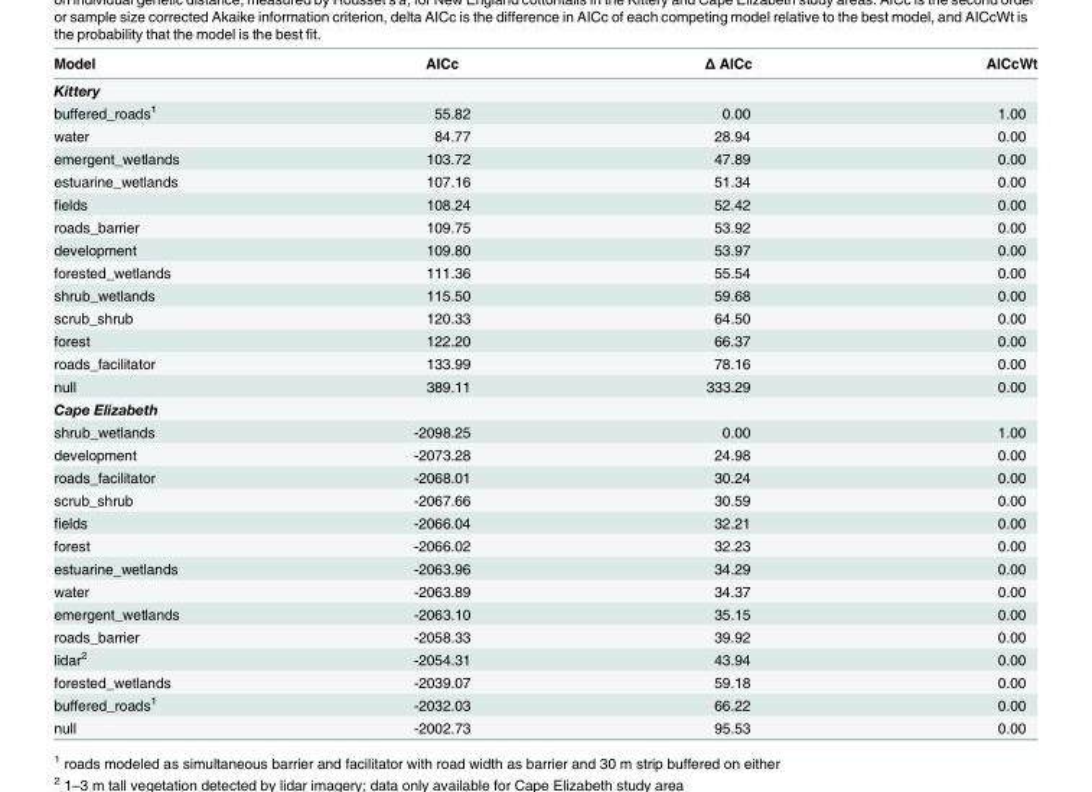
<table><thead><tr><td>Model</td><td>AICc</td><td>Δ AICc</td><td>AICcWt</td></tr></thead><tbody><tr><td colspan="4">Kittery</td></tr><tr><td>buffered_roads<sup>1</sup></td><td>55.82</td><td>0.00</td><td>1.00</td></tr><tr><td>water</td><td>84.77</td><td>28.94</td><td>0.00</td></tr><tr><td>emergent_wetlands</td><td>103.72</td><td>47.89</td><td>0.00</td></tr><tr><td>estuarine_wetlands</td><td>107.16</td><td>51.34</td><td>0.00</td></tr><tr><td>fields</td><td>108.24</td><td>52.42</td><td>0.00</td></tr><tr><td>roads_barrier</td><td>109.75</td><td>53.92</td><td>0.00</td></tr><tr><td>development</td><td>109.80</td><td>53.97</td><td>0.00</td></tr><tr><td>forested_wetlands</td><td>111.36</td><td>55.54</td><td>0.00</td></tr><tr><td>shrub_wetlands</td><td>115.50</td><td>59.68</td><td>0.00</td></tr><tr><td>scrub_shrub</td><td>120.33</td><td>64.50</td><td>0.00</td></tr><tr><td>forest</td><td>122.20</td><td>66.37</td><td>0.00</td></tr><tr><td>roads_facilitator</td><td>133.99</td><td>78.16</td><td>0.00</td></tr><tr><td>null</td><td>389.11</td><td>333.29</td><td>0.00</td></tr><tr><td colspan="4">Cape Elizabeth</td></tr><tr><td>shrub_wetlands</td><td>-2098.25</td><td>0.00</td><td>1.00</td></tr><tr><td>development</td><td>-2073.28</td><td>24.98</td><td>0.00</td></tr><tr><td>roads_facilitator</td><td>-2068.01</td><td>30.24</td><td>0.00</td></tr><tr><td>scrub_shrub</td><td>-2067.66</td><td>30.59</td><td>0.00</td></tr><tr><td>fields</td><td>-2066.04</td><td>32.21</td><td>0.00</td></tr><tr><td>forest</td><td>-2066.02</td><td>32.23</td><td>0.00</td></tr><tr><td>estuarine_wetlands</td><td>-2063.96</td><td>34.29</td><td>0.00</td></tr><tr><td>water</td><td>-2063.89</td><td>34.37</td><td>0.00</td></tr><tr><td>emergent_wetlands</td><td>-2063.10</td><td>35.15</td><td>0.00</td></tr><tr><td>roads_barrier</td><td>-2058.33</td><td>39.92</td><td>0.00</td></tr><tr><td>lidar<sup>2</sup></td><td>-2054.31</td><td>43.94</td><td>0.00</td></tr><tr><td>forested_wetlands</td><td>-2039.07</td><td>59.18</td><td>0.00</td></tr><tr><td>buffered_roads<sup>1</sup></td><td>-2032.03</td><td>66.22</td><td>0.00</td></tr><tr><td>null</td><td>-2002.73</td><td>95.53</td><td>0.00</td></tr></tbody></table>